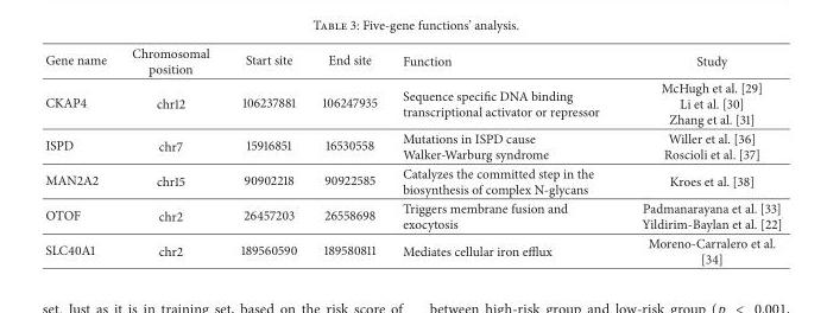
<table><thead><tr><td>Gene name</td><td>Chromosomal position</td><td>Start site</td><td>End site</td><td>Function</td><td>Study</td></tr></thead><tbody><tr><td>CKAP4</td><td>chr12</td><td>106237881</td><td>106247935</td><td>Sequence specific DNA binding transcriptional activator or repressor</td><td>McHugh et al. [29] Li et al. [30] Zhang et al. [31]</td></tr><tr><td>ISPD</td><td>chr7</td><td>15916851</td><td>16530558</td><td>Mutations in ISPD cause Walker-Warburg syndrome</td><td>Willer et al. [36] Roscioli et al. [37]</td></tr><tr><td>MAN2A2</td><td>chr15</td><td>90902218</td><td>90922585</td><td>Catalyzes the committed step in the biosynthesis of complex N-glycans</td><td>Kroes et al. [38]</td></tr><tr><td>OTOF</td><td>chr2</td><td>26457203</td><td>26558698</td><td>Triggers membrane fusion and exocytosis</td><td>Padmanarayana et al. [33] Yildirim-Baylan et al. [22]</td></tr><tr><td>SLC40A1</td><td>chr2</td><td>189560590</td><td>189580811</td><td>Mediates cellular iron efflux</td><td>Moreno-Carralero et al. [34]</td></tr></tbody></table>